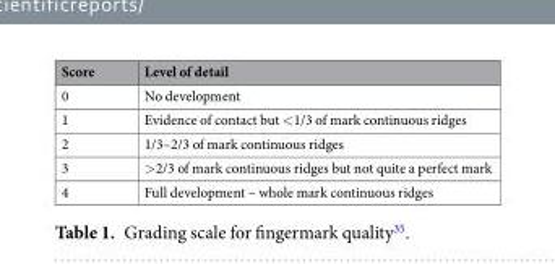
<table><thead><tr><td>Score</td><td>Level of detail</td></tr></thead><tbody><tr><td>0</td><td>No development</td></tr><tr><td>1</td><td>Evidence of contact but &lt;1/3 of mark continuous ridges</td></tr><tr><td>2</td><td>1/3–2/3 of mark continuous ridges</td></tr><tr><td>3</td><td>&gt;2/3 of mark continuous ridges but not quite a perfect mark</td></tr><tr><td>4</td><td>Full development – whole mark continuous ridges</td></tr></tbody></table>